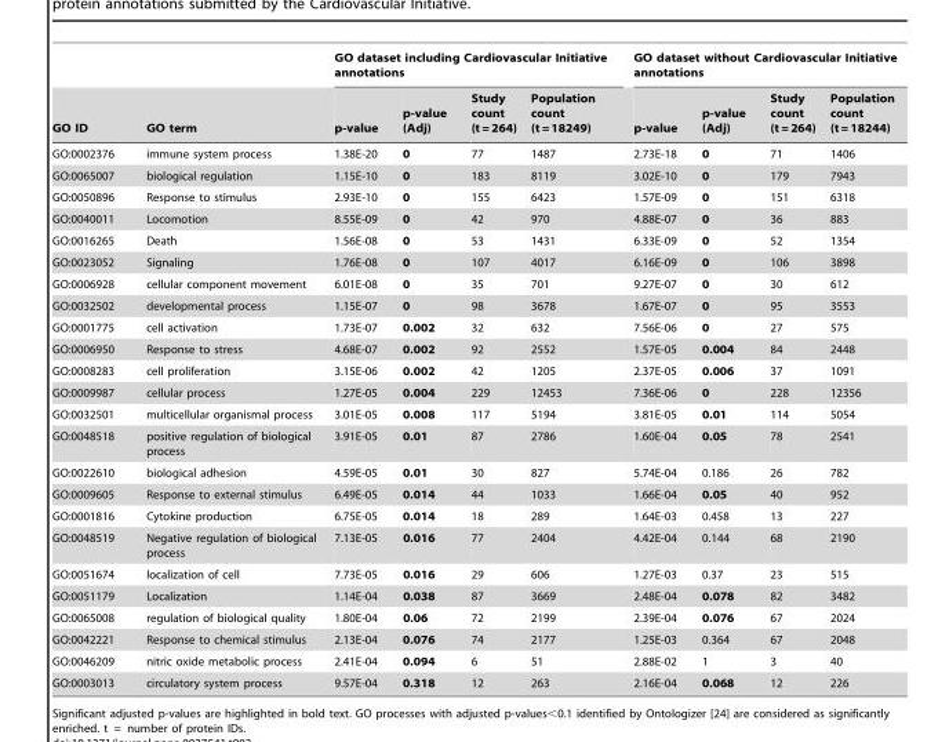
<table><thead><tr><td rowspan="2">GO ID</td><td rowspan="2">GO term</td><td colspan="4">GO dataset including Cardiovascular Initiative annotations</td><td colspan="4">GO dataset without Cardiovascular Initiative annotations</td></tr><tr><td>p-value</td><td>p-value (Adj)</td><td>Study count (t = 264)</td><td>Population count (t = 18249)</td><td>p-value</td><td>p-value (Adj)</td><td>Study count (t = 264)</td><td>Population count (t = 18244)</td></tr></thead><tbody><tr><td>GO:0002376</td><td>immune system process</td><td>1.38E-20</td><td>0</td><td>77</td><td>1487</td><td>2.73E-18</td><td>0</td><td>71</td><td>1406</td></tr><tr><td>GO:0065007</td><td>biological regulation</td><td>1.15E-10</td><td>0</td><td>183</td><td>8119</td><td>3.02E-10</td><td>0</td><td>179</td><td>7943</td></tr><tr><td>GO:0050896</td><td>Response to stimulus</td><td>2.93E-10</td><td>0</td><td>155</td><td>6423</td><td>1.57E-09</td><td>0</td><td>151</td><td>6318</td></tr><tr><td>GO:0040011</td><td>Locomotion</td><td>8.55E-09</td><td>0</td><td>42</td><td>970</td><td>4.88E-07</td><td>0</td><td>36</td><td>883</td></tr><tr><td>GO:0016265</td><td>Death</td><td>1.56E-08</td><td>0</td><td>53</td><td>1431</td><td>6.33E-09</td><td>0</td><td>52</td><td>1354</td></tr><tr><td>GO:0023052</td><td>Signaling</td><td>1.76E-08</td><td>0</td><td>107</td><td>4017</td><td>6.16E-09</td><td>0</td><td>106</td><td>3898</td></tr><tr><td>GO:0006928</td><td>cellular component movement</td><td>6.01E-08</td><td>0</td><td>35</td><td>701</td><td>9.27E-07</td><td>0</td><td>30</td><td>612</td></tr><tr><td>GO:0032502</td><td>developmental process</td><td>1.15E-07</td><td>0</td><td>98</td><td>3678</td><td>1.67E-07</td><td>0</td><td>95</td><td>3553</td></tr><tr><td>GO:0001775</td><td>cell activation</td><td>1.73E-07</td><td>0.002</td><td>32</td><td>632</td><td>7.56E-06</td><td>0</td><td>27</td><td>575</td></tr><tr><td>GO:0006950</td><td>Response to stress</td><td>4.68E-07</td><td>0.002</td><td>92</td><td>2552</td><td>1.57E-05</td><td>0.004</td><td>84</td><td>2448</td></tr><tr><td>GO:0008283</td><td>cell proliferation</td><td>3.15E-06</td><td>0.002</td><td>42</td><td>1205</td><td>2.37E-05</td><td>0.006</td><td>37</td><td>1091</td></tr><tr><td>GO:0009987</td><td>cellular process</td><td>1.27E-05</td><td>0.004</td><td>229</td><td>12453</td><td>7.36E-06</td><td>0</td><td>228</td><td>12356</td></tr><tr><td>GO:0032501</td><td>multicellular organismal process</td><td>3.01E-05</td><td>0.008</td><td>117</td><td>5194</td><td>3.81E-05</td><td>0.01</td><td>114</td><td>5054</td></tr><tr><td>GO:0048518</td><td>positive regulation of biological process</td><td>3.91E-05</td><td>0.01</td><td>87</td><td>2786</td><td>1.60E-04</td><td>0.05</td><td>78</td><td>2541</td></tr><tr><td>GO:0022610</td><td>biological adhesion</td><td>4.59E-05</td><td>0.01</td><td>30</td><td>827</td><td>5.74E-04</td><td>0.186</td><td>26</td><td>782</td></tr><tr><td>GO:0009605</td><td>Response to external stimulus</td><td>6.49E-05</td><td>0.014</td><td>44</td><td>1033</td><td>1.66E-04</td><td>0.05</td><td>40</td><td>952</td></tr><tr><td>GO:0001816</td><td>Cytokine production</td><td>6.75E-05</td><td>0.014</td><td>18</td><td>289</td><td>1.64E-03</td><td>0.458</td><td>13</td><td>227</td></tr><tr><td>GO:0048519</td><td>Negative regulation of biological process</td><td>7.13E-05</td><td>0.016</td><td>77</td><td>2404</td><td>4.42E-04</td><td>0.144</td><td>68</td><td>2190</td></tr><tr><td>GO:0051674</td><td>localization of cell</td><td>7.73E-05</td><td>0.016</td><td>29</td><td>606</td><td>1.27E-03</td><td>0.37</td><td>23</td><td>515</td></tr><tr><td>GO:0051179</td><td>Localization</td><td>1.14E-04</td><td>0.038</td><td>87</td><td>3669</td><td>2.48E-04</td><td>0.078</td><td>82</td><td>3482</td></tr><tr><td>GO:0065008</td><td>regulation of biological quality</td><td>1.80E-04</td><td>0.06</td><td>72</td><td>2199</td><td>2.39E-04</td><td>0.076</td><td>67</td><td>2024</td></tr><tr><td>GO:0042221</td><td>Response to chemical stimulus</td><td>2.13E-04</td><td>0.076</td><td>74</td><td>2177</td><td>1.25E-03</td><td>0.364</td><td>67</td><td>2048</td></tr><tr><td>GO:0046209</td><td>nitric oxide metabolic process</td><td>2.41E-04</td><td>0.094</td><td>6</td><td>51</td><td>2.88E-02</td><td>1</td><td>3</td><td>40</td></tr><tr><td>GO:0003013</td><td>circulatory system process</td><td>9.57E-04</td><td>0.318</td><td>12</td><td>263</td><td>2.16E-04</td><td>0.068</td><td>12</td><td>226</td></tr></tbody></table>